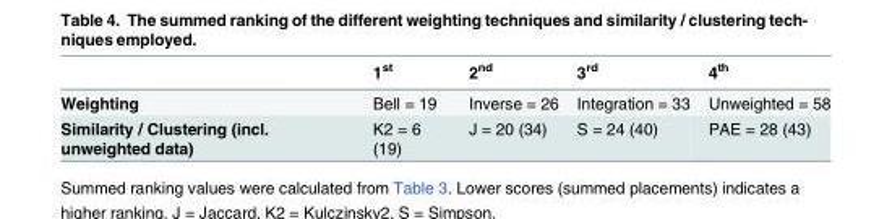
<table><thead><tr><td></td><td>1<sup>st</sup></td><td>2<sup>nd</sup></td><td>3<sup>rd</sup></td><td>4<sup>th</sup></td></tr></thead><tbody><tr><td>Weighting</td><td>Bell = 19</td><td>Inverse = 26</td><td>Integration = 33</td><td>Unweighted = 58</td></tr><tr><td>Similarity / Clustering (incl. unweighted data)</td><td>K2 = 6 (19)</td><td>J = 20 (34)</td><td>S = 24 (40)</td><td>PAE = 28 (43)</td></tr></tbody></table>